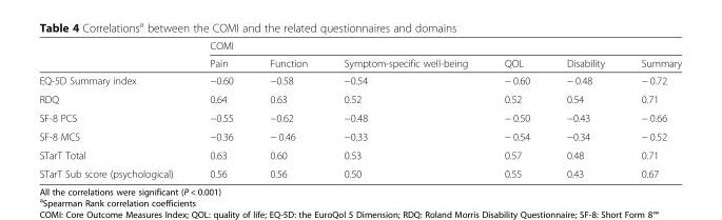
<table><thead><tr><td rowspan="2"></td><td colspan="6">COMI</td></tr><tr><td>Pain</td><td>Function</td><td>Symptom-specific well-being</td><td>QOL</td><td>Disability</td><td>Summary</td></tr></thead><tbody><tr><td>EQ-5D Summary index</td><td>−0.60</td><td>−0.58</td><td>−0.54</td><td>− 0.60</td><td>− 0.48</td><td>− 0.72</td></tr><tr><td>RDQ</td><td>0.64</td><td>0.63</td><td>0.52</td><td>0.52</td><td>0.54</td><td>0.71</td></tr><tr><td>SF-8 PCS</td><td>−0.55</td><td>−0.62</td><td>−0.48</td><td>− 0.50</td><td>−0.43</td><td>− 0.66</td></tr><tr><td>SF-8 MCS</td><td>−0.36</td><td>− 0.46</td><td>−0.33</td><td>− 0.54</td><td>−0.34</td><td>− 0.52</td></tr><tr><td>STarT Total</td><td>0.63</td><td>0.60</td><td>0.53</td><td>0.57</td><td>0.48</td><td>0.71</td></tr><tr><td>STarT Sub score (psychological)</td><td>0.56</td><td>0.56</td><td>0.50</td><td>0.55</td><td>0.43</td><td>0.67</td></tr></tbody></table>